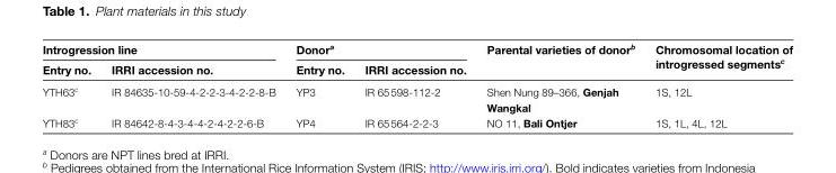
<table><thead><tr><td colspan="2">Introgression line</td><td colspan="2">Donor<sup>a</sup></td><td rowspan="2">Parental varieties of donor<sup>b</sup></td><td rowspan="2">Chromosomal location of introgressed segments<sup>c</sup></td></tr><tr><td>Entry no.</td><td>IRRI accession no.</td><td>Entry no.</td><td>IRRI accession no.</td></tr></thead><tbody><tr><td>YTH63<sup>c</sup></td><td>IR 84635-10-59-4-2-2-3-4-2-2-8-B</td><td>YP3</td><td>IR 65 598-112-2</td><td>Shen Nung 89–366, Genjah Wangkal</td><td>1S, 12L</td></tr><tr><td>YTH83<sup>c</sup></td><td>IR 84642-8-4-3-4-4-2-4-2-2-6-B</td><td>YP4</td><td>IR 65 564-2-2-3</td><td>NO 11, Bali Ontjer</td><td>1S, 1L, 4L, 12L</td></tr></tbody></table>